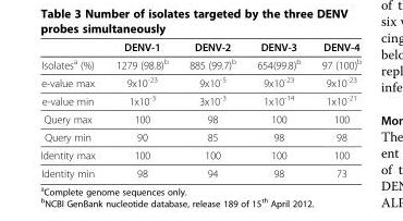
<table><thead><tr><td></td><td>DENV-1</td><td>DENV-2</td><td>DENV-3</td><td>DENV-4</td></tr></thead><tbody><tr><td>Isolates<sup>a</sup> (%)</td><td>1279 (98.8)<sup>b</sup></td><td>885 (99.7)<sup>b</sup></td><td>654(99.8)<sup>b</sup></td><td>97 (100)<sup>b</sup></td></tr><tr><td>e-value max</td><td>9x10<sup>-23</sup></td><td>9x10<sup>-5</sup></td><td>9x10<sup>-23</sup></td><td>9x10<sup>-23</sup></td></tr><tr><td>e-value min</td><td>1x10<sup>-3</sup></td><td>3x10<sup>-3</sup></td><td>1x10<sup>-14</sup></td><td>1x10<sup>-21</sup></td></tr><tr><td>Query max</td><td>100</td><td>98</td><td>100</td><td>100</td></tr><tr><td>Query min</td><td>90</td><td>85</td><td>98</td><td>98</td></tr><tr><td>Identity max</td><td>100</td><td>100</td><td>100</td><td>100</td></tr><tr><td>Identity min</td><td>98</td><td>94</td><td>98</td><td>73</td></tr></tbody></table>